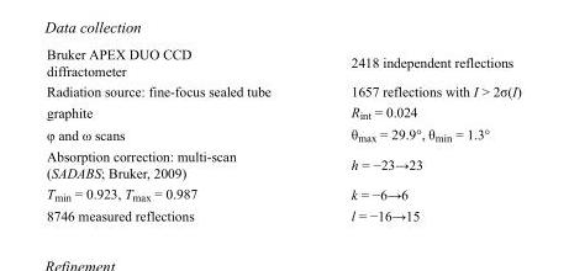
<table><tbody><tr><td>Bruker APEX DUO CCD diffractometer</td><td>2418 independent reflections</td></tr><tr><td>Radiation source: fine-focus sealed tube</td><td>1657 reflections with I &gt; 2σ(I)</td></tr><tr><td>graphite</td><td>R<sub>int</sub> = 0.024</td></tr><tr><td>φ and ω scans</td><td>θ<sub>max</sub> = 29.9°, θ<sub>min</sub> = 1.3°</td></tr><tr><td>Absorption correction: multi-scan (SADABS; Bruker, 2009)</td><td>h = −23→23</td></tr><tr><td>T<sub>min</sub> = 0.923, T<sub>max</sub> = 0.987</td><td>k = −6→6</td></tr><tr><td>8746 measured reflections</td><td>l = −16→15</td></tr></tbody></table>